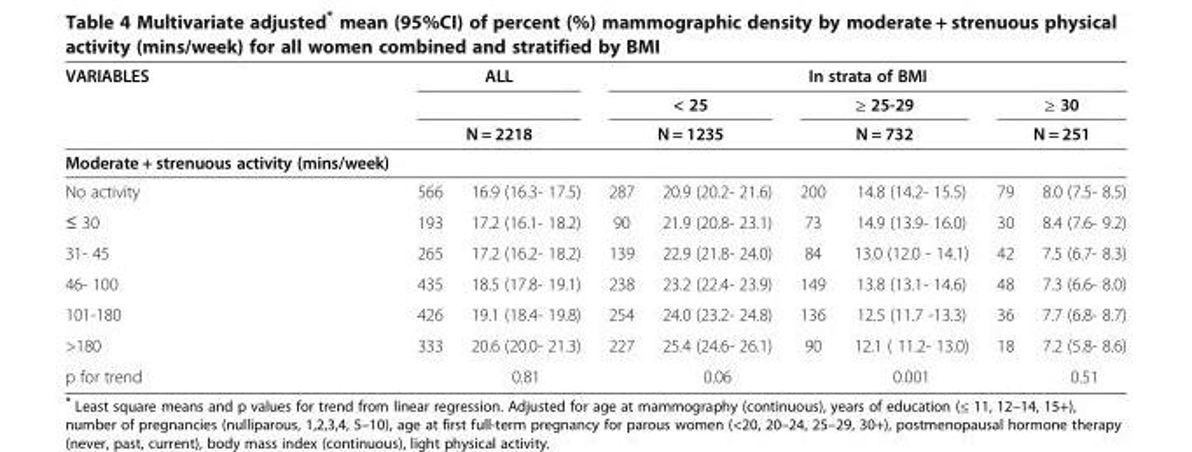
<table><thead><tr><td rowspan="4">VARIABLES Moderate + strenuous activity (mins/week)</td><td colspan="2">ALL</td><td colspan="6">In strata of BMI</td></tr><tr><td></td><td></td><td rowspan="2" colspan="2">&lt; 25 N = 1235</td><td rowspan="2" colspan="2">≥ 25-29 N = 732</td><td rowspan="2" colspan="2">≥ 30 N = 251</td></tr><tr><td colspan="2">N = 2218</td></tr><tr><td></td><td></td><td></td><td></td><td></td><td></td><td></td><td></td></tr></thead><tbody><tr><td>No activity</td><td>566</td><td>16.9 (16.3- 17.5)</td><td>287</td><td>20.9 (20.2- 21.6)</td><td>200</td><td>14.8 (14.2- 15.5)</td><td>79</td><td>8.0 (7.5- 8.5)</td></tr><tr><td>≤ 30</td><td>193</td><td>17.2 (16.1- 18.2)</td><td>90</td><td>21.9 (20.8- 23.1)</td><td>73</td><td>14.9 (13.9- 16.0)</td><td>30</td><td>8.4 (7.6- 9.2)</td></tr><tr><td>31- 45</td><td>265</td><td>17.2 (16.2- 18.2)</td><td>139</td><td>22.9 (21.8- 24.0)</td><td>84</td><td>13.0 (12.0 - 14.1)</td><td>42</td><td>7.5 (6.7- 8.3)</td></tr><tr><td>46- 100</td><td>435</td><td>18.5 (17.8- 19.1)</td><td>238</td><td>23.2 (22.4- 23.9)</td><td>149</td><td>13.8 (13.1- 14.6)</td><td>48</td><td>7.3 (6.6- 8.0)</td></tr><tr><td>101-180</td><td>426</td><td>19.1 (18.4- 19.8)</td><td>254</td><td>24.0 (23.2- 24.8)</td><td>136</td><td>12.5 (11.7 -13.3)</td><td>36</td><td>7.7 (6.8- 8.7)</td></tr><tr><td>&gt;180</td><td>333</td><td>20.6 (20.0- 21.3)</td><td>227</td><td>25.4 (24.6- 26.1)</td><td>90</td><td>12.1 ( 11.2- 13.0)</td><td>18</td><td>7.2 (5.8- 8.6)</td></tr><tr><td>p for trend</td><td></td><td>0.81</td><td></td><td>0.06</td><td></td><td>0.001</td><td></td><td>0.51</td></tr></tbody></table>